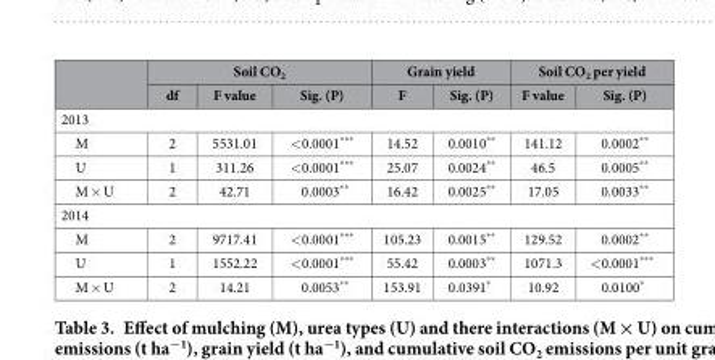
<table><thead><tr><td rowspan="2"></td><td colspan="3">Soil CO<sub>2</sub></td><td colspan="2">Grain yield</td><td colspan="2">Soil CO<sub>2</sub> per yield</td></tr><tr><td>df</td><td>F value</td><td>Sig. (P)</td><td>F</td><td>Sig. (P)</td><td>F value</td><td>Sig. (P)</td></tr></thead><tbody><tr><td colspan="8">2013</td></tr><tr><td>M</td><td>2</td><td>5531.01</td><td>&lt; 0.0001***</td><td>14.52</td><td>0.0010**</td><td>141.12</td><td>0.0002**</td></tr><tr><td>U</td><td>1</td><td>311.26</td><td>&lt; 0.0001***</td><td>25.07</td><td>0.0024**</td><td>46.5</td><td>0.0005**</td></tr><tr><td>M × U</td><td>2</td><td>42.71</td><td>0.0003**</td><td>16.42</td><td>0.0025**</td><td>17.05</td><td>0.0033**</td></tr><tr><td colspan="8">2014</td></tr><tr><td>M</td><td>2</td><td>9717.41</td><td>&lt; 0.0001***</td><td>105.23</td><td>0.0015**</td><td>129.52</td><td>0.0002**</td></tr><tr><td>U</td><td>1</td><td>1552.22</td><td>&lt; 0.0001***</td><td>55.42</td><td>0.0003**</td><td>1071.3</td><td>&lt; 0.0001***</td></tr><tr><td>M × U</td><td>2</td><td>14.21</td><td>0.0053**</td><td>153.91</td><td>0.0391*</td><td>10.92</td><td>0.0100*</td></tr></tbody></table>